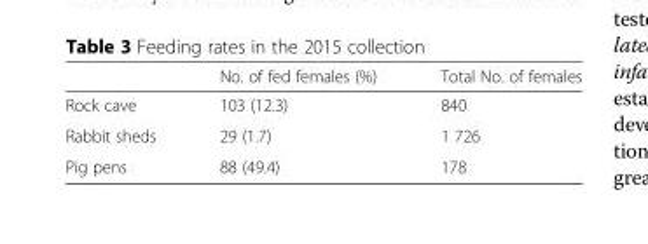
<table><thead><tr><td></td><td>No. of fed females (%)</td><td>Total No. of females</td></tr></thead><tbody><tr><td>Rock cave</td><td>103 (12.3)</td><td>840</td></tr><tr><td>Rabbit sheds</td><td>29 (1.7)</td><td>1 726</td></tr><tr><td>Pig pens</td><td>88 (49.4)</td><td>178</td></tr></tbody></table>